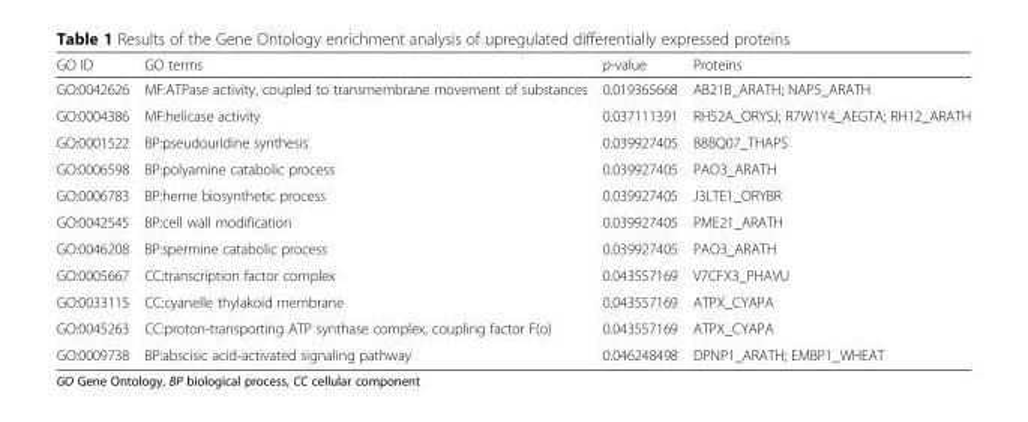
<table><thead><tr><td>GO ID</td><td>GO terms</td><td>p-value</td><td>Proteins</td></tr></thead><tbody><tr><td>GO:0042626</td><td>MF:ATPase activity, coupled to transmembrane movement of substances</td><td>0.019365668</td><td>AB21B_ARATH; NAP5_ARATH</td></tr><tr><td>GO:0004386</td><td>MF:helicase activity</td><td>0.037111391</td><td>RH52A_ORYSJ; R7W1Y4_AEGTA; RH12_ARATH</td></tr><tr><td>GO:0001522</td><td>BP:pseudouridine synthesis</td><td>0.039927405</td><td>B8BQ07_THAPS</td></tr><tr><td>GO:0006598</td><td>BP:polyamine catabolic process</td><td>0.039927405</td><td>PAO3_ARATH</td></tr><tr><td>GO:0006783</td><td>BP:heme biosynthetic process</td><td>0.039927405</td><td>J3LTE1_ORYBR</td></tr><tr><td>GO:0042545</td><td>BP:cell wall modification</td><td>0.039927405</td><td>PME21_ARATH</td></tr><tr><td>GO:0046208</td><td>BP:spermine catabolic process</td><td>0.039927405</td><td>PAO3_ARATH</td></tr><tr><td>GO:0005667</td><td>CC:transcription factor complex</td><td>0.043557169</td><td>V7CFX3_PHAVU</td></tr><tr><td>GO:0033115</td><td>CC:cyanelle thylakoid membrane</td><td>0.043557169</td><td>ATPX_CYAPA</td></tr><tr><td>GO:0045263</td><td>CC:proton-transporting ATP synthase complex, coupling factor F(o)</td><td>0.043557169</td><td>ATPX_CYAPA</td></tr><tr><td>GO:0009738</td><td>BP:abscisic acid-activated signaling pathway</td><td>0.046248498</td><td>DPNP1_ARATH; EMBP1_WHEAT</td></tr></tbody></table>